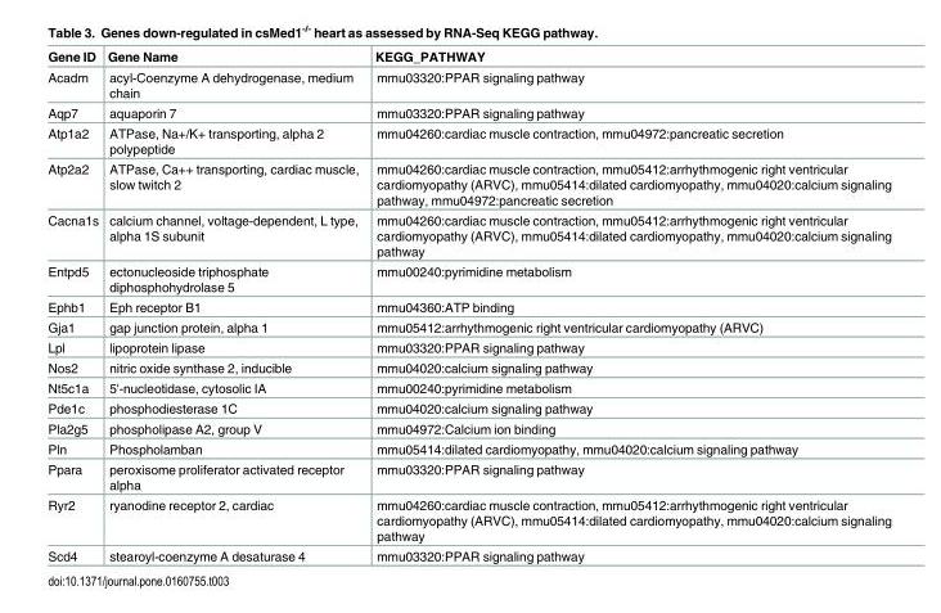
<table><thead><tr><td>Gene ID</td><td>Gene Name</td><td>KEGG_PATHWAY</td></tr></thead><tbody><tr><td>Acadm</td><td>acyl-Coenzyme A dehydrogenase, medium chain</td><td>mmu03320:PPAR signaling pathway</td></tr><tr><td>Aqp7</td><td>aquaporin 7</td><td>mmu03320:PPAR signaling pathway</td></tr><tr><td>Atp1a2</td><td>ATPase, Na+/K+ transporting, alpha 2 polypeptide</td><td>mmu04260:cardiac muscle contraction, mmu04972:pancreatic secretion</td></tr><tr><td>Atp2a2</td><td>ATPase, Ca++ transporting, cardiac muscle, slow twitch 2</td><td>mmu04260:cardiac muscle contraction, mmu05412:arrhythmogenic right ventricular cardiomyopathy (ARVC), mmu05414:dilated cardiomyopathy, mmu04020:calcium signaling pathway, mmu04972:pancreatic secretion</td></tr><tr><td>Cacna1s</td><td>calcium channel, voltage-dependent, L type, alpha 1S subunit</td><td>mmu04260:cardiac muscle contraction, mmu05412:arrhythmogenic right ventricular cardiomyopathy (ARVC), mmu05414:dilated cardiomyopathy, mmu04020:calcium signaling pathway</td></tr><tr><td>Entpd5</td><td>ectonucleoside triphosphate diphosphohydrolase 5</td><td>mmu00240:pyrimidine metabolism</td></tr><tr><td>Ephb1</td><td>Eph receptor B1</td><td>mmu04360:ATP binding</td></tr><tr><td>Gja1</td><td>gap junction protein, alpha 1</td><td>mmu05412:arrhythmogenic right ventricular cardiomyopathy (ARVC)</td></tr><tr><td>Lpl</td><td>lipoprotein lipase</td><td>mmu03320:PPAR signaling pathway</td></tr><tr><td>Nos2</td><td>nitric oxide synthase 2, inducible</td><td>mmu04020:calcium signaling pathway</td></tr><tr><td>Nt5c1a</td><td>5&#x27;-nucleotidase, cytosolic IA</td><td>mmu00240:pyrimidine metabolism</td></tr><tr><td>Pde1c</td><td>phosphodiesterase 1C</td><td>mmu04020:calcium signaling pathway</td></tr><tr><td>Pla2g5</td><td>phospholipase A2, group V</td><td>mmu04972:Calcium ion binding</td></tr><tr><td>Pln</td><td>Phospholamban</td><td>mmu05414:dilated cardiomyopathy, mmu04020:calcium signaling pathway</td></tr><tr><td>Ppara</td><td>peroxisome proliferator activated receptor alpha</td><td>mmu03320:PPAR signaling pathway</td></tr><tr><td>Ryr2</td><td>ryanodine receptor 2, cardiac</td><td>mmu04260:cardiac muscle contraction, mmu05412:arrhythmogenic right ventricular cardiomyopathy (ARVC), mmu05414:dilated cardiomyopathy, mmu04020:calcium signaling pathway</td></tr><tr><td>Scd4</td><td>stearoyl-coenzyme A desaturase 4</td><td>mmu03320:PPAR signaling pathway</td></tr></tbody></table>